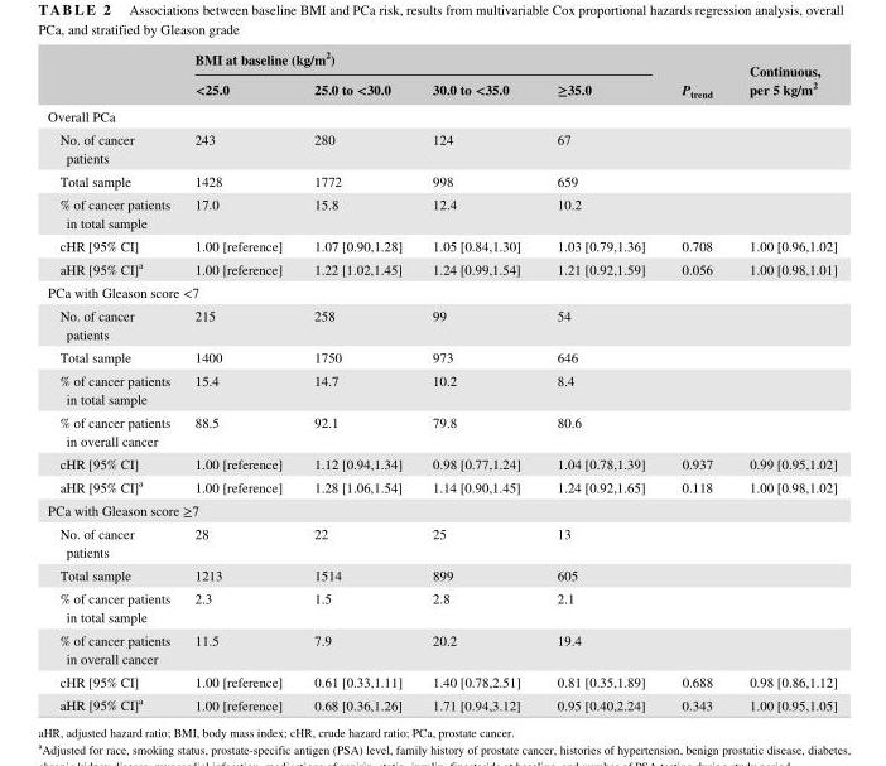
<table><thead><tr><td rowspan="2"></td><td colspan="4">BMI at baseline (kg/m<sup>2</sup>)</td><td rowspan="2">P<sub>trend</sub></td><td rowspan="2">Continuous, per 5 kg/m<sup>2</sup></td></tr><tr><td>&lt;25.0</td><td>25.0 to &lt;30.0</td><td>30.0 to &lt;35.0</td><td>≥35.0</td></tr></thead><tbody><tr><td colspan="7">Overall PCa</td></tr><tr><td>No. of cancer patients</td><td>243</td><td>280</td><td>124</td><td>67</td><td></td><td></td></tr><tr><td>Total sample</td><td>1428</td><td>1772</td><td>998</td><td>659</td><td></td><td></td></tr><tr><td>% of cancer patients in total sample</td><td>17.0</td><td>15.8</td><td>12.4</td><td>10.2</td><td></td><td></td></tr><tr><td>cHR [95% CI]</td><td>1.00 [reference]</td><td>1.07 [0.90,1.28]</td><td>1.05 [0.84,1.30]</td><td>1.03 [0.79,1.36]</td><td>0.708</td><td>1.00 [0.96,1.02]</td></tr><tr><td>aHR [95% CI]<sup>a</sup></td><td>1.00 [reference]</td><td>1.22 [1.02,1.45]</td><td>1.24 [0.99,1.54]</td><td>1.21 [0.92,1.59]</td><td>0.056</td><td>1.00 [0.98,1.01]</td></tr><tr><td colspan="7">PCa with Gleason score &lt;7</td></tr><tr><td>No. of cancer patients</td><td>215</td><td>258</td><td>99</td><td>54</td><td></td><td></td></tr><tr><td>Total sample</td><td>1400</td><td>1750</td><td>973</td><td>646</td><td></td><td></td></tr><tr><td>% of cancer patients in total sample</td><td>15.4</td><td>14.7</td><td>10.2</td><td>8.4</td><td></td><td></td></tr><tr><td>% of cancer patients in overall cancer</td><td>88.5</td><td>92.1</td><td>79.8</td><td>80.6</td><td></td><td></td></tr><tr><td>cHR [95% CI]</td><td>1.00 [reference]</td><td>1.12 [0.94,1.34]</td><td>0.98 [0.77,1.24]</td><td>1.04 [0.78,1.39]</td><td>0.937</td><td>0.99 [0.95,1.02]</td></tr><tr><td>aHR [95% CI]<sup>a</sup></td><td>1.00 [reference]</td><td>1.28 [1.06,1.54]</td><td>1.14 [0.90,1.45]</td><td>1.24 [0.92,1.65]</td><td>0.118</td><td>1.00 [0.98,1.02]</td></tr><tr><td colspan="7">PCa with Gleason score ≥7</td></tr><tr><td>No. of cancer patients</td><td>28</td><td>22</td><td>25</td><td>13</td><td></td><td></td></tr><tr><td>Total sample</td><td>1213</td><td>1514</td><td>899</td><td>605</td><td></td><td></td></tr><tr><td>% of cancer patients in total sample</td><td>2.3</td><td>1.5</td><td>2.8</td><td>2.1</td><td></td><td></td></tr><tr><td>% of cancer patients in overall cancer</td><td>11.5</td><td>7.9</td><td>20.2</td><td>19.4</td><td></td><td></td></tr><tr><td>cHR [95% CI]</td><td>1.00 [reference]</td><td>0.61 [0.33,1.11]</td><td>1.40 [0.78,2.51]</td><td>0.81 [0.35,1.89]</td><td>0.688</td><td>0.98 [0.86,1.12]</td></tr><tr><td>aHR [95% CI]<sup>a</sup></td><td>1.00 [reference]</td><td>0.68 [0.36,1.26]</td><td>1.71 [0.94,3.12]</td><td>0.95 [0.40,2.24]</td><td>0.343</td><td>1.00 [0.95,1.05]</td></tr></tbody></table>